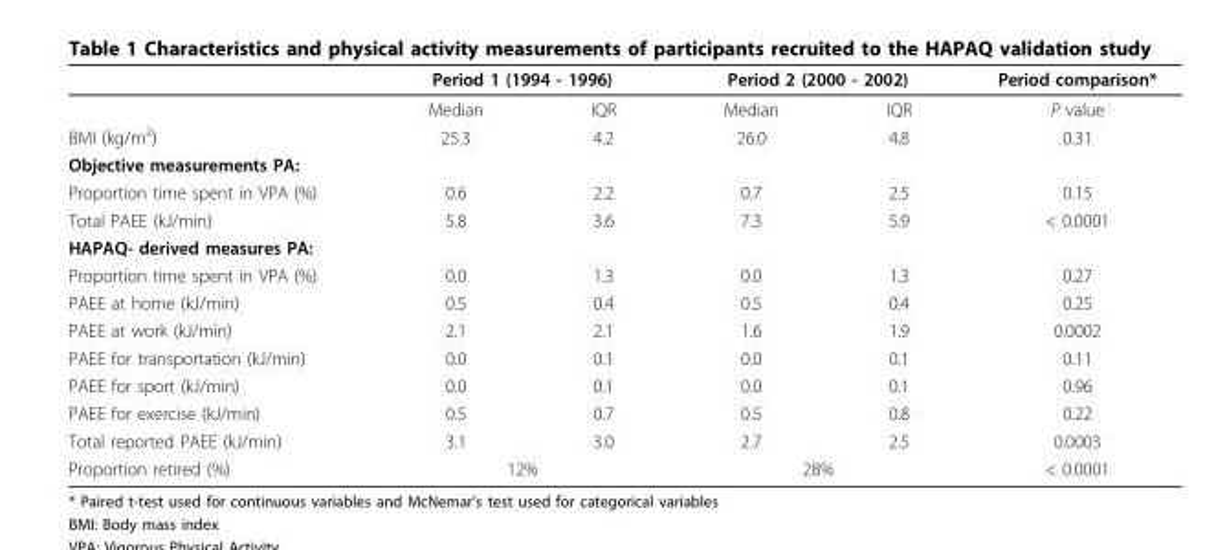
<table><thead><tr><td rowspan="2"></td><td colspan="2">Period 1 (1994 - 1996)</td><td colspan="2">Period 2 (2000 - 2002)</td><td rowspan="2">Period comparison* P value</td></tr><tr><td>Median</td><td>IQR</td><td>Median</td><td>IQR</td></tr></thead><tbody><tr><td>BMI (kg/m<sup>2</sup>)</td><td>25.3</td><td>4.2</td><td>26.0</td><td>4.8</td><td>0.31</td></tr><tr><td colspan="6">Objective measurements PA:</td></tr><tr><td>Proportion time spent in VPA (%)</td><td>0.6</td><td>2.2</td><td>0.7</td><td>2.5</td><td>0.15</td></tr><tr><td>Total PAEE (kJ/min)</td><td>5.8</td><td>3.6</td><td>7.3</td><td>5.9</td><td>&lt; 0.0001</td></tr><tr><td colspan="6">HAPAQ- derived measures PA:</td></tr><tr><td>Proportion time spent in VPA (%)</td><td>0.0</td><td>1.3</td><td>0.0</td><td>1.3</td><td>0.27</td></tr><tr><td>PAEE at home (kJ/min)</td><td>0.5</td><td>0.4</td><td>0.5</td><td>0.4</td><td>0.25</td></tr><tr><td>PAEE at work (kJ/min)</td><td>2.1</td><td>2.1</td><td>1.6</td><td>1.9</td><td>0.0002</td></tr><tr><td>PAEE for transportation (kJ/min)</td><td>0.0</td><td>0.1</td><td>0.0</td><td>0.1</td><td>0.11</td></tr><tr><td>PAEE for sport (kJ/min)</td><td>0.0</td><td>0.1</td><td>0.0</td><td>0.1</td><td>0.96</td></tr><tr><td>PAEE for exercise (kJ/min)</td><td>0.5</td><td>0.7</td><td>0.5</td><td>0.8</td><td>0.22</td></tr><tr><td>Total reported PAEE (kJ/min)</td><td>3.1</td><td>3.0</td><td>2.7</td><td>2.5</td><td>0.0003</td></tr><tr><td>Proportion retired (%)</td><td colspan="2">12%</td><td colspan="2">28%</td><td>&lt; 0.0001</td></tr></tbody></table>